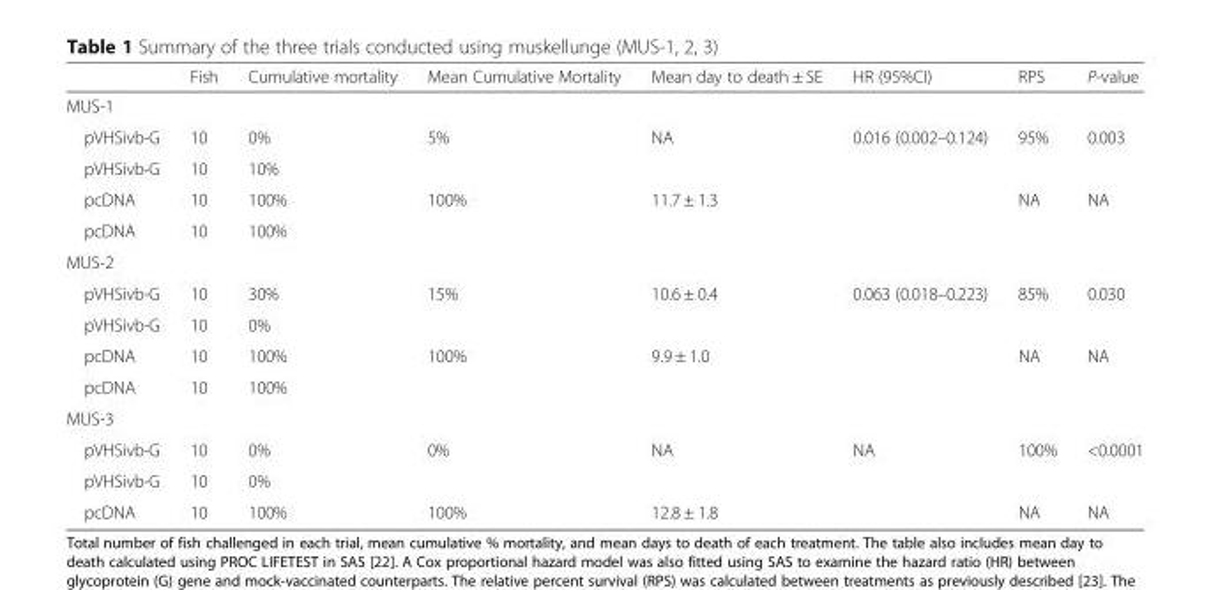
<table><thead><tr><td></td><td>Fish</td><td>Cumulative mortality</td><td>Mean Cumulative Mortality</td><td>Mean day to death ± SE</td><td>HR (95%CI)</td><td>RPS</td><td>P-value</td></tr></thead><tbody><tr><td colspan="8">MUS-1</td></tr><tr><td>pVHSivb-G</td><td>10</td><td>0%</td><td rowspan="2">5%</td><td rowspan="2">NA</td><td rowspan="2">0.016 (0.002–0.124)</td><td rowspan="2">95%</td><td rowspan="2">0.003</td></tr><tr><td>pVHSivb-G</td><td>10</td><td>10%</td></tr><tr><td>pcDNA</td><td>10</td><td>100%</td><td rowspan="2">100%</td><td rowspan="2">11.7 ± 1.3</td><td rowspan="2"></td><td rowspan="2">NA</td><td rowspan="2">NA</td></tr><tr><td>pcDNA</td><td>10</td><td>100%</td></tr><tr><td colspan="8">MUS-2</td></tr><tr><td>pVHSivb-G</td><td>10</td><td>30%</td><td rowspan="2">15%</td><td rowspan="2">10.6 ± 0.4</td><td rowspan="2">0.063 (0.018–0.223)</td><td rowspan="2">85%</td><td rowspan="2">0.030</td></tr><tr><td>pVHSivb-G</td><td>10</td><td>0%</td></tr><tr><td>pcDNA</td><td>10</td><td>100%</td><td rowspan="2">100%</td><td rowspan="2">9.9 ± 1.0</td><td rowspan="2"></td><td rowspan="2">NA</td><td rowspan="2">NA</td></tr><tr><td>pcDNA</td><td>10</td><td>100%</td></tr><tr><td colspan="8">MUS-3</td></tr><tr><td>pVHSivb-G</td><td>10</td><td>0%</td><td rowspan="2">0%</td><td rowspan="2">NA</td><td rowspan="2">NA</td><td rowspan="2">100%</td><td rowspan="2">&lt;0.0001</td></tr><tr><td>pVHSivb-G</td><td>10</td><td>0%</td></tr><tr><td>pcDNA</td><td>10</td><td>100%</td><td>100%</td><td>12.8 ± 1.8</td><td></td><td>NA</td><td>NA</td></tr></tbody></table>